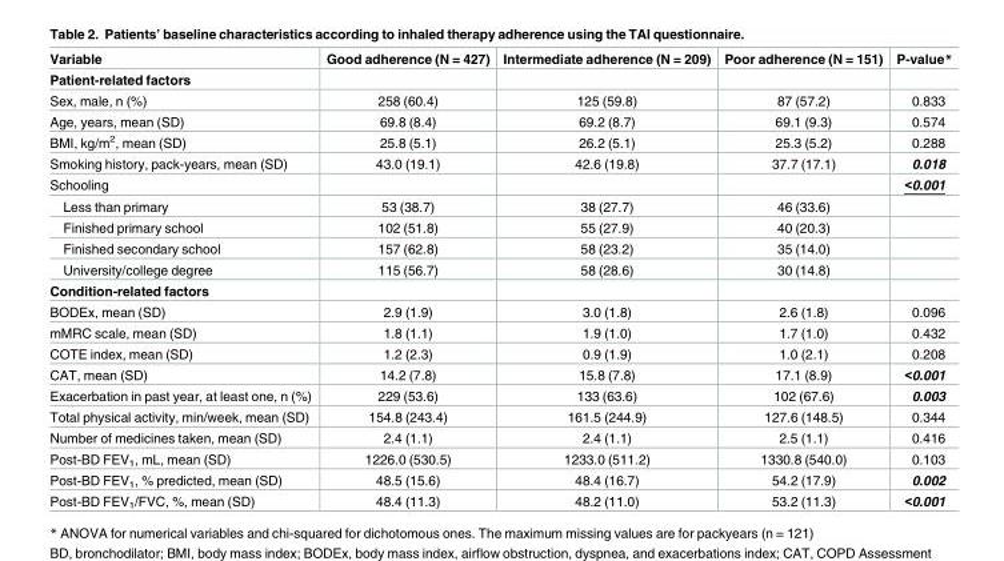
<table><thead><tr><td>Variable</td><td>Good adherence (N = 427)</td><td>Intermediate adherence (N = 209)</td><td>Poor adherence (N = 151)</td><td>P-value*</td></tr></thead><tbody><tr><td colspan="5">Patient-related factors</td></tr><tr><td>Sex, male, n (%)</td><td>258 (60.4)</td><td>125 (59.8)</td><td>87 (57.2)</td><td>0.833</td></tr><tr><td>Age, years, mean (SD)</td><td>69.8 (8.4)</td><td>69.2 (8.7)</td><td>69.1 (9.3)</td><td>0.574</td></tr><tr><td>BMI, kg/m<sup>2</sup>, mean (SD)</td><td>25.8 (5.1)</td><td>26.2 (5.1)</td><td>25.3 (5.2)</td><td>0.288</td></tr><tr><td>Smoking history, pack-years, mean (SD)</td><td>43.0 (19.1)</td><td>42.6 (19.8)</td><td>37.7 (17.1)</td><td>0.018</td></tr><tr><td>Schooling</td><td></td><td></td><td></td><td>&lt;0.001</td></tr><tr><td>Less than primary</td><td>53 (38.7)</td><td>38 (27.7)</td><td>46 (33.6)</td><td></td></tr><tr><td>Finished primary school</td><td>102 (51.8)</td><td>55 (27.9)</td><td>40 (20.3)</td><td></td></tr><tr><td>Finished secondary school</td><td>157 (62.8)</td><td>58 (23.2)</td><td>35 (14.0)</td><td></td></tr><tr><td>University/college degree</td><td>115 (56.7)</td><td>58 (28.6)</td><td>30 (14.8)</td><td></td></tr><tr><td colspan="5">Condition-related factors</td></tr><tr><td>BODEx, mean (SD)</td><td>2.9 (1.9)</td><td>3.0 (1.8)</td><td>2.6 (1.8)</td><td>0.096</td></tr><tr><td>mMRC scale, mean (SD)</td><td>1.8 (1.1)</td><td>1.9 (1.0)</td><td>1.7 (1.0)</td><td>0.432</td></tr><tr><td>COTE index, mean (SD)</td><td>1.2 (2.3)</td><td>0.9 (1.9)</td><td>1.0 (2.1)</td><td>0.208</td></tr><tr><td>CAT, mean (SD)</td><td>14.2 (7.8)</td><td>15.8 (7.8)</td><td>17.1 (8.9)</td><td>&lt;0.001</td></tr><tr><td>Exacerbation in past year, at least one, n (%)</td><td>229 (53.6)</td><td>133 (63.6)</td><td>102 (67.6)</td><td>0.003</td></tr><tr><td>Total physical activity, min/week, mean (SD)</td><td>154.8 (243.4)</td><td>161.5 (244.9)</td><td>127.6 (148.5)</td><td>0.344</td></tr><tr><td>Number of medicines taken, mean (SD)</td><td>2.4 (1.1)</td><td>2.4 (1.1)</td><td>2.5 (1.1)</td><td>0.416</td></tr><tr><td>Post-BD FEV<sub>1</sub>, mL, mean (SD)</td><td>1226.0 (530.5)</td><td>1233.0 (511.2)</td><td>1330.8 (540.0)</td><td>0.103</td></tr><tr><td>Post-BD FEV<sub>1</sub>, % predicted, mean (SD)</td><td>48.5 (15.6)</td><td>48.4 (16.7)</td><td>54.2 (17.9)</td><td>0.002</td></tr><tr><td>Post-BD FEV<sub>1</sub>/FVC, %, mean (SD)</td><td>48.4 (11.3)</td><td>48.2 (11.0)</td><td>53.2 (11.3)</td><td>&lt;0.001</td></tr></tbody></table>